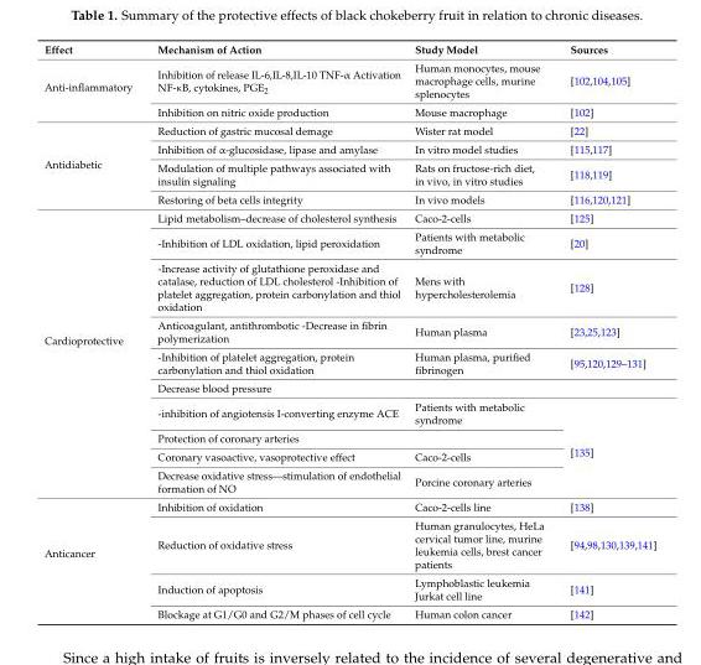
<table><thead><tr><td>Effect</td><td>Mechanism of Action</td><td>Study Model</td><td>Sources</td></tr></thead><tbody><tr><td rowspan="2">Anti-inflammatory</td><td>Inhibition of release IL-6,IL-8,IL-10 TNF-α Activation NF-κB, cytokines, PGE<sub>2</sub></td><td>Human monocytes, mouse macrophage cells, murine splenocytes</td><td>[102,104,105]</td></tr><tr><td>Inhibition on nitric oxide production</td><td>Mouse macrophage</td><td>[102]</td></tr><tr><td rowspan="4">Antidiabetic</td><td>Reduction of gastric mucosal demage</td><td>Wister rat model</td><td>[22]</td></tr><tr><td>Inhibition of α-glucosidase, lipase and amylase</td><td>In vitro model studies</td><td>[115,117]</td></tr><tr><td>Modulation of multiple pathways associated with insulin signaling</td><td>Rats on fructose-rich diet, in vivo, in vitro studies</td><td>[118,119]</td></tr><tr><td>Restoring of beta cells integrity</td><td>In vivo models</td><td>[116,120,121]</td></tr><tr><td rowspan="10">Cardioprotective</td><td>Lipid metabolism–decrease of cholesterol synthesis</td><td>Caco-2-cells</td><td>[125]</td></tr><tr><td>-Inhibition of LDL oxidation, lipid peroxidation</td><td>Patients with metabolic syndrome</td><td>[20]</td></tr><tr><td>-Increase activity of glutathione peroxidase and catalase, reduction of LDL cholesterol -Inhibition of platelet aggregation, protein carbonylation and thiol oxidation</td><td>Mens with hypercholesterolemia</td><td>[128]</td></tr><tr><td>Anticoagulant, antithrombotic -Decrease in fibrin polymerization</td><td>Human plasma</td><td>[23,25,123]</td></tr><tr><td>-Inhibition of platelet aggregation, protein carbonylation and thiol oxidation</td><td>Human plasma, purified fibrinogen</td><td>[95,120,129–131]</td></tr><tr><td>Decrease blood pressure</td><td></td><td></td></tr><tr><td>-inhibition of angiotensis I-converting enzyme ACE</td><td>Patients with metabolic syndrome</td><td rowspan="4">[135]</td></tr><tr><td>Protection of coronary arteries</td><td></td></tr><tr><td>Coronary vasoactive, vasoprotective effect</td><td>Caco-2-cells</td></tr><tr><td>Decrease oxidative stress—stimulation of endothelial formation of NO</td><td>Porcine coronary arteries</td></tr><tr><td rowspan="4">Anticancer</td><td>Inhibition of oxidation</td><td>Caco-2-cells line</td><td>[138]</td></tr><tr><td>Reduction of oxidative stress</td><td>Human granulocytes, HeLa cervical tumor line, murine leukemia cells, brest cancer patients</td><td>[94,98,130,139,141]</td></tr><tr><td>Induction of apoptosis</td><td>Lymphoblastic leukemia Jurkat cell line</td><td>[141]</td></tr><tr><td>Blockage at G1/G0 and G2/M phases of cell cycle</td><td>Human colon cancer</td><td>[142]</td></tr></tbody></table>